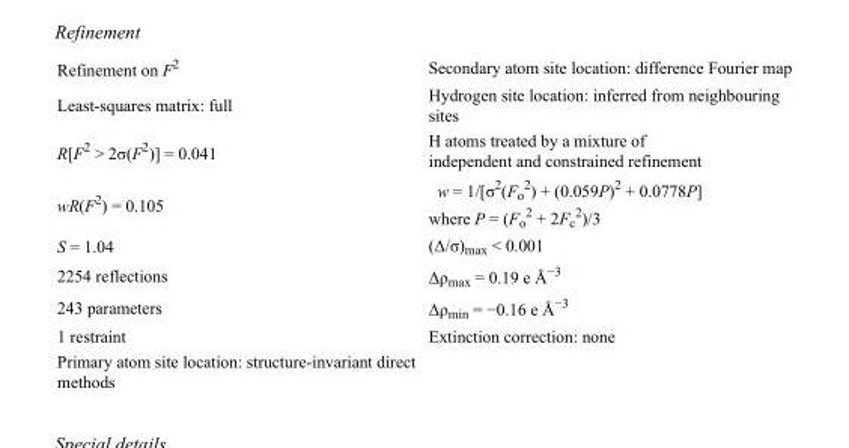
<table><tbody><tr><td>Refinement on F<sup>2</sup></td><td>Secondary atom site location: difference Fourier map</td></tr><tr><td>Least-squares matrix: full</td><td>Hydrogen site location: inferred from neighbouring sites</td></tr><tr><td>R[F<sup>2</sup> &gt; 2σ(F<sup>2</sup>)] = 0.041</td><td>H atoms treated by a mixture of independent and constrained refinement</td></tr><tr><td>wR(F<sup>2</sup>) = 0.105</td><td>w = 1/[σ<sup>2</sup>(F<sub>o</sub> <sup>2</sup>) + (0.059P)<sup>2</sup> + 0.0778P] where P = (F<sub>o</sub> <sup>2</sup> + 2F<sub>c</sub> <sup>2</sup>)/3</td></tr><tr><td>S = 1.04</td><td>(Δ/σ)<sub>max</sub> &lt; 0.001</td></tr><tr><td>2254 reflections</td><td>Δρ<sub>max</sub> = 0.19 e Å<sup>−3</sup></td></tr><tr><td>243 parameters</td><td>Δρ<sub>min</sub> = −0.16 e Å<sup>−3</sup></td></tr><tr><td>1 restraint</td><td>Extinction correction: none</td></tr><tr><td>Primary atom site location: structure-invariant direct methods</td><td></td></tr></tbody></table>